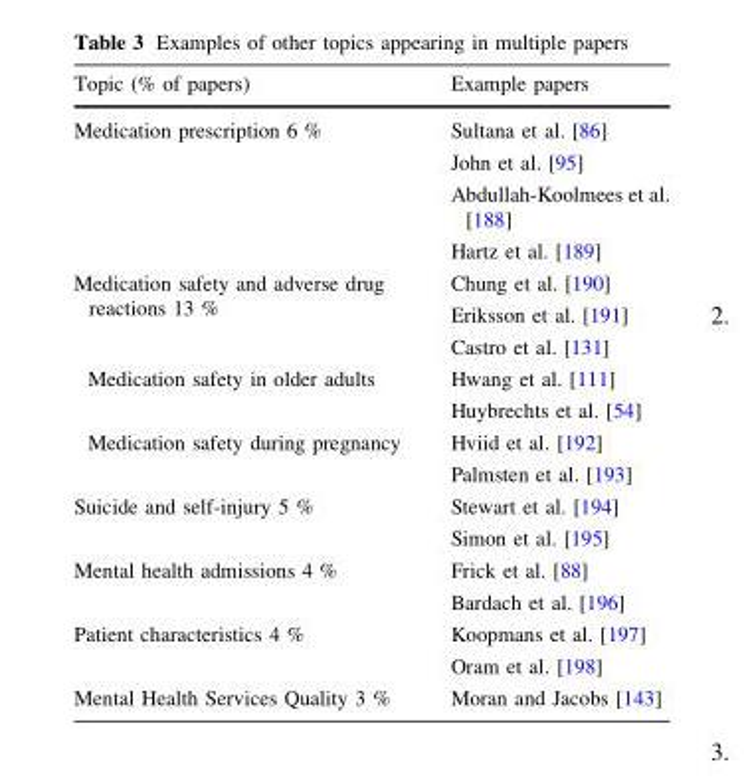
<table><thead><tr><td>Topic (% of papers)</td><td>Example papers</td></tr></thead><tbody><tr><td>Medication prescription 6 %</td><td>Sultana et al. [86] John et al. [95] Abdullah-Koolmees et al. [188] Hartz et al. [189]</td></tr><tr><td>Medication safety and adverse drug reactions 13 %</td><td>Chung et al. [190] Eriksson et al. [191] Castro et al. [131]</td></tr><tr><td>Medication safety in older adults</td><td>Hwang et al. [111] Huybrechts et al. [54]</td></tr><tr><td>Medication safety during pregnancy</td><td>Hviid et al. [192] Palmsten et al. [193]</td></tr><tr><td>Suicide and self-injury 5 %</td><td>Stewart et al. [194] Simon et al. [195]</td></tr><tr><td>Mental health admissions 4 %</td><td>Frick et al. [88] Bardach et al. [196]</td></tr><tr><td>Patient characteristics 4 %</td><td>Koopmans et al. [197] Oram et al. [198]</td></tr><tr><td>Mental Health Services Quality 3 %</td><td>Moran and Jacobs [143]</td></tr></tbody></table>